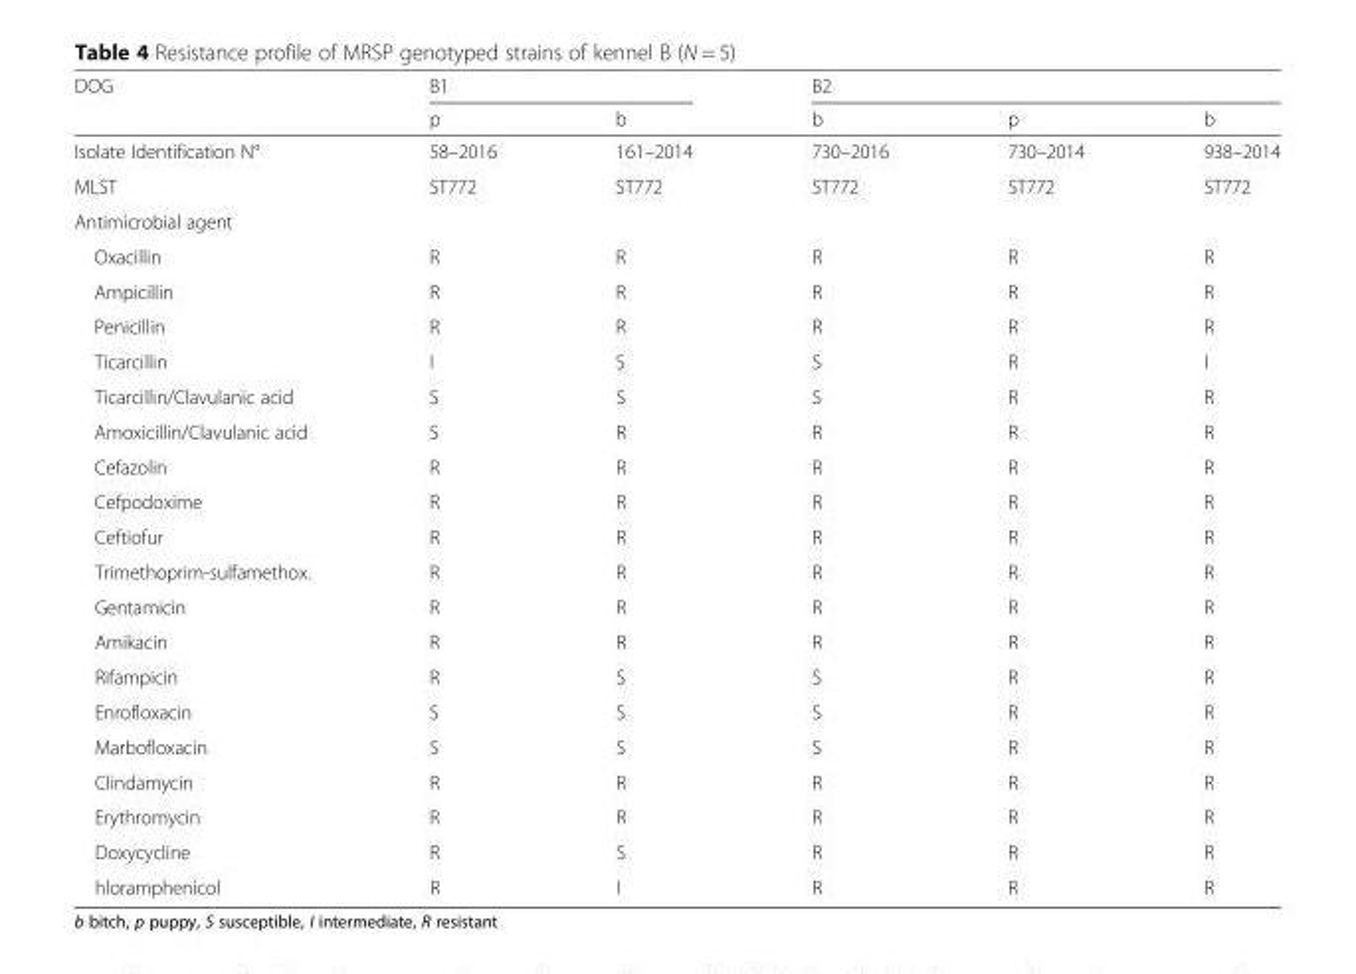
<table><thead><tr><td rowspan="2">DOG</td><td colspan="2">B1</td><td colspan="3">B2</td></tr><tr><td>p</td><td>b</td><td>b</td><td>p</td><td>b</td></tr></thead><tbody><tr><td>Isolate Identification N°</td><td>58–2016</td><td>161–2014</td><td>730–2016</td><td>730–2014</td><td>938–2014</td></tr><tr><td>MLST</td><td>ST772</td><td>ST772</td><td>ST772</td><td>ST772</td><td>ST772</td></tr><tr><td colspan="6">Antimicrobial agent</td></tr><tr><td>Oxacillin</td><td>R</td><td>R</td><td>R</td><td>R</td><td>R</td></tr><tr><td>Ampicillin</td><td>R</td><td>R</td><td>R</td><td>R</td><td>R</td></tr><tr><td>Penicillin</td><td>R</td><td>R</td><td>R</td><td>R</td><td>R</td></tr><tr><td>Ticarcillin</td><td>I</td><td>S</td><td>S</td><td>R</td><td>I</td></tr><tr><td>Ticarcillin/Clavulanic acid</td><td>S</td><td>S</td><td>S</td><td>R</td><td>R</td></tr><tr><td>Amoxicillin/Clavulanic acid</td><td>S</td><td>R</td><td>R</td><td>R</td><td>R</td></tr><tr><td>Cefazolin</td><td>R</td><td>R</td><td>R</td><td>R</td><td>R</td></tr><tr><td>Cefpodoxime</td><td>R</td><td>R</td><td>R</td><td>R</td><td>R</td></tr><tr><td>Ceftiofur</td><td>R</td><td>R</td><td>R</td><td>R</td><td>R</td></tr><tr><td>Trimethoprim-sulfamethox.</td><td>R</td><td>R</td><td>R</td><td>R</td><td>R</td></tr><tr><td>Gentamicin</td><td>R</td><td>R</td><td>R</td><td>R</td><td>R</td></tr><tr><td>Amikacin</td><td>R</td><td>R</td><td>R</td><td>R</td><td>R</td></tr><tr><td>Rifampicin</td><td>R</td><td>S</td><td>S</td><td>R</td><td>R</td></tr><tr><td>Enrofloxacin</td><td>S</td><td>S</td><td>S</td><td>R</td><td>R</td></tr><tr><td>Marbofloxacin</td><td>S</td><td>S</td><td>S</td><td>R</td><td>R</td></tr><tr><td>Clindamycin</td><td>R</td><td>R</td><td>R</td><td>R</td><td>R</td></tr><tr><td>Erythromycin</td><td>R</td><td>R</td><td>R</td><td>R</td><td>R</td></tr><tr><td>Doxycycline</td><td>R</td><td>S</td><td>R</td><td>R</td><td>R</td></tr><tr><td>hloramphenicol</td><td>R</td><td>I</td><td>R</td><td>R</td><td>R</td></tr></tbody></table>